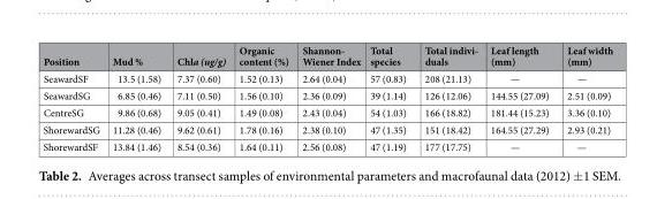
<table><thead><tr><td>Position</td><td>Mud %</td><td>Chla (ug/g)</td><td>Organic content (%)</td><td>Shannon- Wiener Index</td><td>Total species</td><td>Total indivi- duals</td><td>Leaf length (mm)</td><td>Leaf width (mm)</td></tr></thead><tbody><tr><td>SeawardSF</td><td>13.5 (1.58)</td><td>7.37 (0.60)</td><td>1.52 (0.13)</td><td>2.64 (0.04)</td><td>57 (0.83)</td><td>208 (21.13)</td><td>—</td><td>—</td></tr><tr><td>SeawardSG</td><td>6.85 (0.46)</td><td>7.11 (0.50)</td><td>1.56 (0.10)</td><td>2.36 (0.09)</td><td>39 (1.14)</td><td>126 (12.06)</td><td>144.55 (27.09)</td><td>2.51 (0.09)</td></tr><tr><td>CentreSG</td><td>9.86 (0.68)</td><td>9.05 (0.41)</td><td>1.49 (0.08)</td><td>2.43 (0.04)</td><td>54 (1.03)</td><td>166 (18.82)</td><td>181.44 (15.23)</td><td>3.36 (0.10)</td></tr><tr><td>ShorewardSG</td><td>11.28 (0.46)</td><td>9.62 (0.61)</td><td>1.78 (0.16)</td><td>2.38 (0.10)</td><td>47 (1.35)</td><td>151 (18.42)</td><td>164.55 (27.29)</td><td>2.93 (0.21)</td></tr><tr><td>ShorewardSF</td><td>13.84 (1.46)</td><td>8.54 (0.36)</td><td>1.64 (0.11)</td><td>2.56 (0.08)</td><td>47 (1.19)</td><td>177 (17.75)</td><td>—</td><td>—</td></tr></tbody></table>